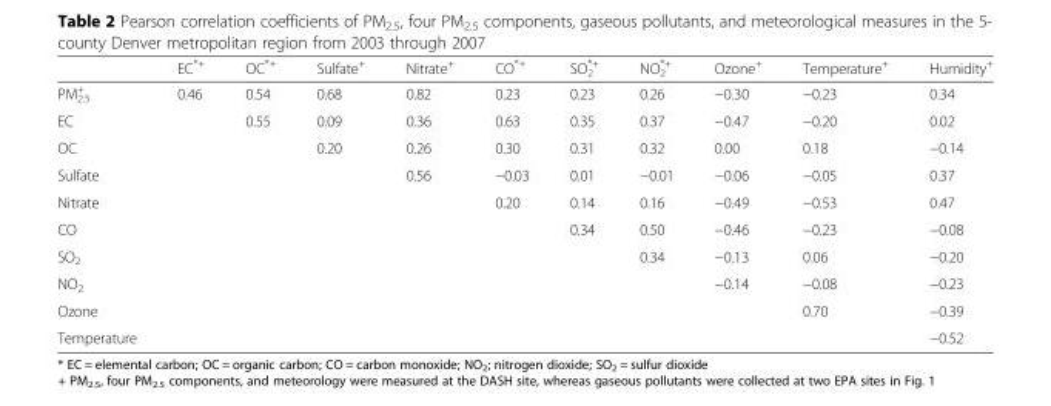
<table><thead><tr><td></td><td>EC<sup>*+</sup></td><td>OC<sup>*+</sup></td><td>Sulfate<sup>+</sup></td><td>Nitrate<sup>+</sup></td><td>CO<sup>*+</sup></td><td>SO<sub>2</sub> <sup>*+</sup></td><td>NO<sub>2</sub> <sup>*+</sup></td><td>Ozone<sup>+</sup></td><td>Temperature<sup>+</sup></td><td>Humidity<sup>+</sup></td></tr></thead><tbody><tr><td>PM<sub>2.5</sub> <sup>+</sup></td><td>0.46</td><td>0.54</td><td>0.68</td><td>0.82</td><td>0.23</td><td>0.23</td><td>0.26</td><td>−0.30</td><td>−0.23</td><td>0.34</td></tr><tr><td>EC</td><td></td><td>0.55</td><td>0.09</td><td>0.36</td><td>0.63</td><td>0.35</td><td>0.37</td><td>−0.47</td><td>−0.20</td><td>0.02</td></tr><tr><td>OC</td><td></td><td></td><td>0.20</td><td>0.26</td><td>0.30</td><td>0.31</td><td>0.32</td><td>0.00</td><td>0.18</td><td>−0.14</td></tr><tr><td>Sulfate</td><td></td><td></td><td></td><td>0.56</td><td>−0.03</td><td>0.01</td><td>−0.01</td><td>−0.06</td><td>−0.05</td><td>0.37</td></tr><tr><td>Nitrate</td><td></td><td></td><td></td><td></td><td>0.20</td><td>0.14</td><td>0.16</td><td>−0.49</td><td>−0.53</td><td>0.47</td></tr><tr><td>CO</td><td></td><td></td><td></td><td></td><td></td><td>0.34</td><td>0.50</td><td>−0.46</td><td>−0.23</td><td>−0.08</td></tr><tr><td>SO<sub>2</sub></td><td></td><td></td><td></td><td></td><td></td><td></td><td>0.34</td><td>−0.13</td><td>0.06</td><td>−0.20</td></tr><tr><td>NO<sub>2</sub></td><td></td><td></td><td></td><td></td><td></td><td></td><td></td><td>−0.14</td><td>−0.08</td><td>−0.23</td></tr><tr><td>Ozone</td><td></td><td></td><td></td><td></td><td></td><td></td><td></td><td></td><td>0.70</td><td>−0.39</td></tr><tr><td>Temperature</td><td></td><td></td><td></td><td></td><td></td><td></td><td></td><td></td><td></td><td>−0.52</td></tr></tbody></table>